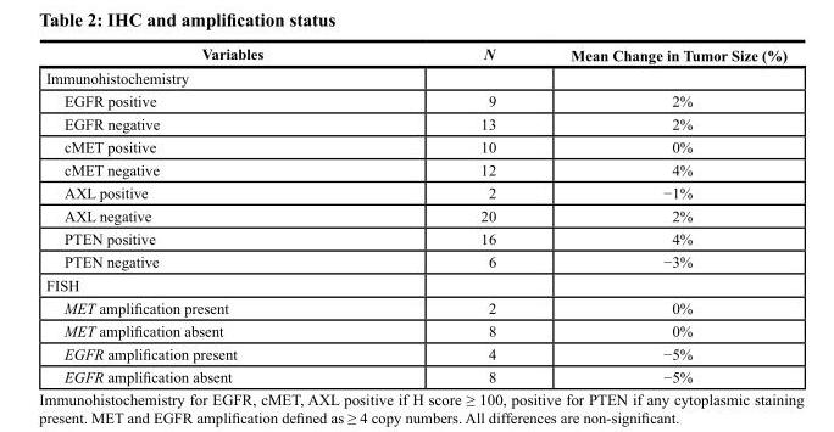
<table><thead><tr><td>Variables</td><td>N</td><td>Mean Change in Tumor Size (%)</td></tr></thead><tbody><tr><td colspan="3">Immunohistochemistry</td></tr><tr><td>EGFR positive</td><td>9</td><td>2%</td></tr><tr><td>EGFR negative</td><td>13</td><td>2%</td></tr><tr><td>cMET positive</td><td>10</td><td>0%</td></tr><tr><td>cMET negative</td><td>12</td><td>4%</td></tr><tr><td>AXL positive</td><td>2</td><td>−1%</td></tr><tr><td>AXL negative</td><td>20</td><td>2%</td></tr><tr><td>PTEN positive</td><td>16</td><td>4%</td></tr><tr><td>PTEN negative</td><td>6</td><td>−3%</td></tr><tr><td colspan="3">FISH</td></tr><tr><td>MET amplification present</td><td>2</td><td>0%</td></tr><tr><td>MET amplification absent</td><td>8</td><td>0%</td></tr><tr><td>EGFR amplification present</td><td>4</td><td>−5%</td></tr><tr><td>EGFR amplification absent</td><td>8</td><td>−5%</td></tr></tbody></table>